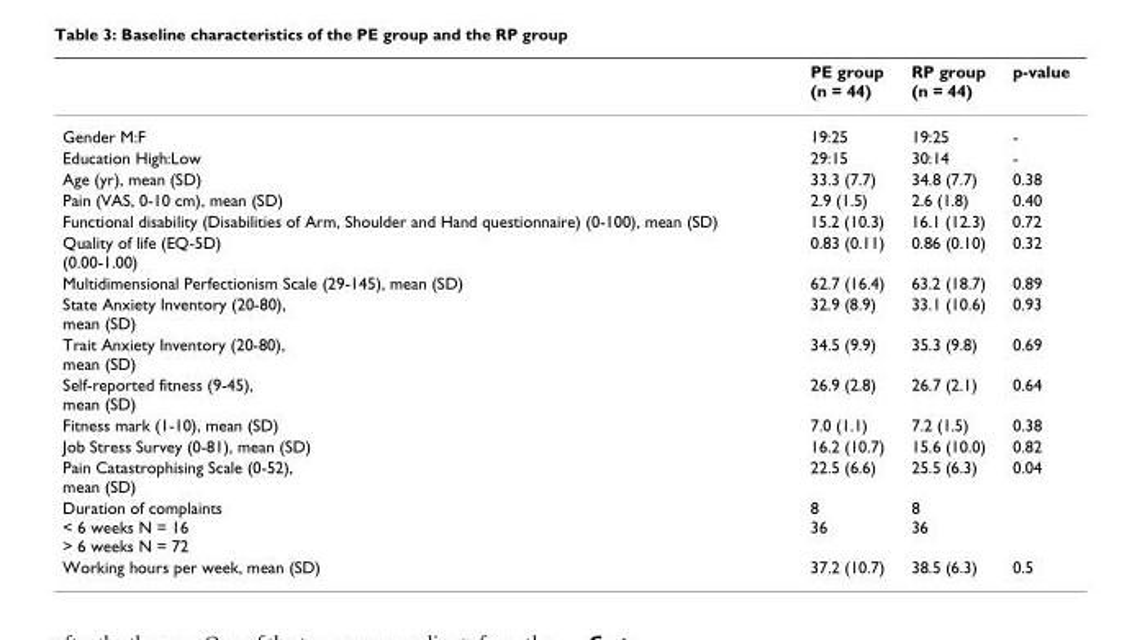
<table><thead><tr><td></td><td>PE group (n = 44)</td><td>RP group (n = 44)</td><td>p-value</td></tr></thead><tbody><tr><td>Gender M:F</td><td>19:25</td><td>19:25</td><td>-</td></tr><tr><td>Education High:Low</td><td>29:15</td><td>30:14</td><td>-</td></tr><tr><td>Age (yr), mean (SD)</td><td>33.3 (7.7)</td><td>34.8 (7.7)</td><td>0.38</td></tr><tr><td>Pain (VAS, 0-10 cm), mean (SD)</td><td>2.9 (1.5)</td><td>2.6 (1.8)</td><td>0.40</td></tr><tr><td>Functional disability (Disabilities of Arm, Shoulder and Hand questionnaire) (0-100), mean (SD)</td><td>15.2 (10.3)</td><td>16.1 (12.3)</td><td>0.72</td></tr><tr><td>Quality of life (EQ-5D) (0.00-1.00)</td><td>0.83 (0.11)</td><td>0.86 (0.10)</td><td>0.32</td></tr><tr><td>Multidimensional Perfectionism Scale (29-145), mean (SD)</td><td>62.7 (16.4)</td><td>63.2 (18.7)</td><td>0.89</td></tr><tr><td>State Anxiety Inventory (20-80), mean (SD)</td><td>32.9 (8.9)</td><td>33.1 (10.6)</td><td>0.93</td></tr><tr><td>Trait Anxiety Inventory (20-80), mean (SD)</td><td>34.5 (9.9)</td><td>35.3 (9.8)</td><td>0.69</td></tr><tr><td>Self-reported fitness (9-45), mean (SD)</td><td>26.9 (2.8)</td><td>26.7 (2.1)</td><td>0.64</td></tr><tr><td>Fitness mark (1-10), mean (SD)</td><td>7.0 (1.1)</td><td>7.2 (1.5)</td><td>0.38</td></tr><tr><td>Job Stress Survey (0-81), mean (SD)</td><td>16.2 (10.7)</td><td>15.6 (10.0)</td><td>0.82</td></tr><tr><td>Pain Catastrophising Scale (0-52), mean (SD)</td><td>22.5 (6.6)</td><td>25.5 (6.3)</td><td>0.04</td></tr><tr><td>Duration of complaints &lt; 6 weeks N = 16 &gt; 6 weeks N = 72</td><td>8 36</td><td>8 36</td><td></td></tr><tr><td>Working hours per week, mean (SD)</td><td>37.2 (10.7)</td><td>38.5 (6.3)</td><td>0.5</td></tr></tbody></table>